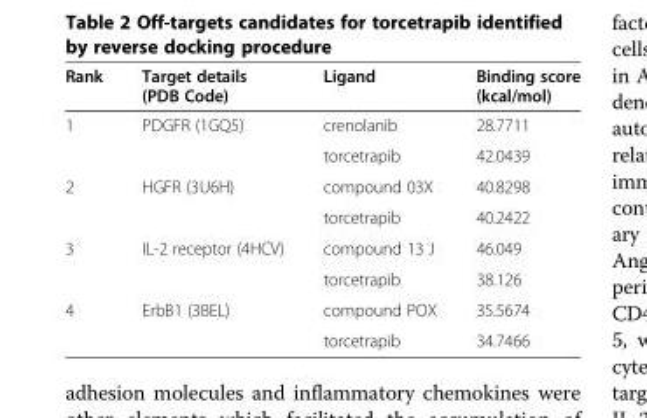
<table><thead><tr><td>Rank</td><td>Target details (PDB Code)</td><td>Ligand</td><td>Binding score (kcal/mol)</td></tr></thead><tbody><tr><td rowspan="2">1</td><td rowspan="2">PDGFR (1GQ5)</td><td>crenolanib</td><td>28.7711</td></tr><tr><td>torcetrapib</td><td>42.0439</td></tr><tr><td rowspan="2">2</td><td rowspan="2">HGFR (3U6H)</td><td>compound 03X</td><td>40.8298</td></tr><tr><td>torcetrapib</td><td>40.2422</td></tr><tr><td rowspan="2">3</td><td rowspan="2">IL-2 receptor (4HCV)</td><td>compound 13 J</td><td>46.049</td></tr><tr><td>torcetrapib</td><td>38.126</td></tr><tr><td rowspan="2">4</td><td rowspan="2">ErbB1 (3BEL)</td><td>compound POX</td><td>35.5674</td></tr><tr><td>torcetrapib</td><td>34.7466</td></tr></tbody></table>